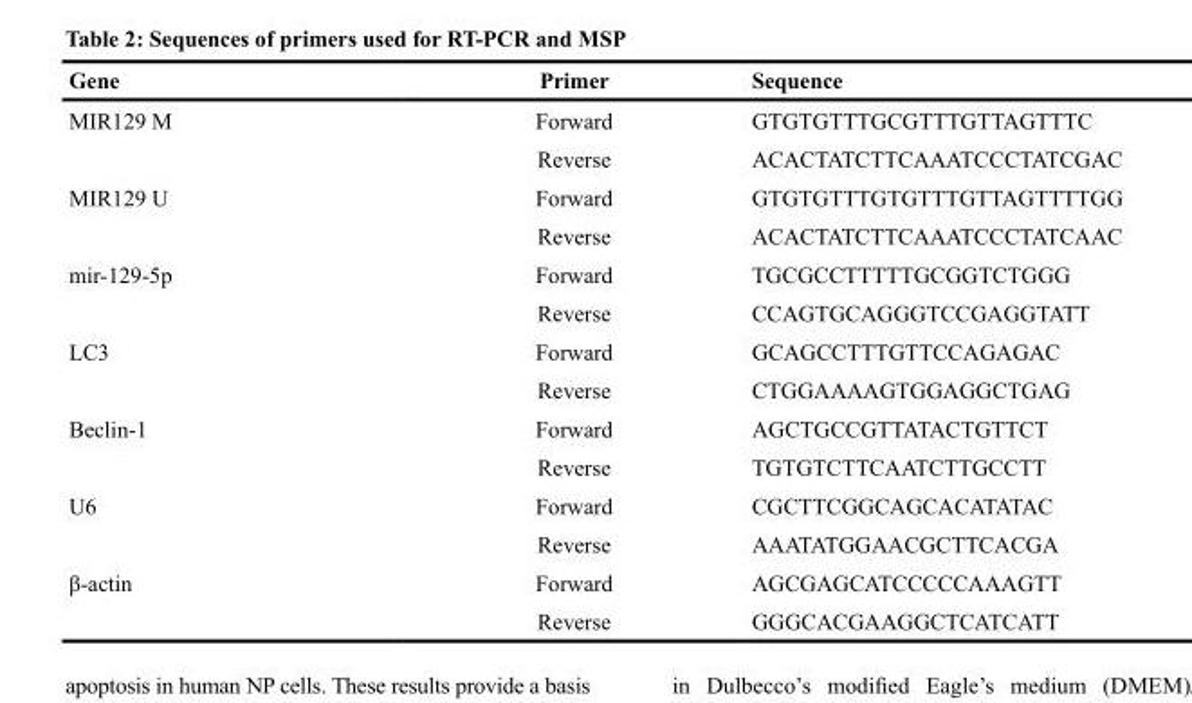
<table><thead><tr><td>Gene</td><td>Primer</td><td>Sequence</td></tr></thead><tbody><tr><td rowspan="2">MIR129 M</td><td>Forward</td><td>GTGTGTTTGCGTTTGTTAGTTTC</td></tr><tr><td>Reverse</td><td>ACACTATCTTCAAATCCCTATCGAC</td></tr><tr><td rowspan="2">MIR129 U</td><td>Forward</td><td>GTGTGTTTGTGTTTGTTAGTTTTGG</td></tr><tr><td>Reverse</td><td>ACACTATCTTCAAATCCCTATCAAC</td></tr><tr><td rowspan="2">mir-129-5p</td><td>Forward</td><td>TGCGCCTTTTTGCGGTCTGGG</td></tr><tr><td>Reverse</td><td>CCAGTGCAGGGTCCGAGGTATT</td></tr><tr><td rowspan="2">LC3</td><td>Forward</td><td>GCAGCCTTTGTTCCAGAGAC</td></tr><tr><td>Reverse</td><td>CTGGAAAAGTGGAGGCTGAG</td></tr><tr><td rowspan="2">Beclin-1</td><td>Forward</td><td>AGCTGCCGTTATACTGTTCT</td></tr><tr><td>Reverse</td><td>TGTGTCTTCAATCTTGCCTT</td></tr><tr><td rowspan="2">U6</td><td>Forward</td><td>CGCTTCGGCAGCACATATAC</td></tr><tr><td>Reverse</td><td>AAATATGGAACGCTTCACGA</td></tr><tr><td rowspan="2">β-actin</td><td>Forward</td><td>AGCGAGCATCCCCCAAAGTT</td></tr><tr><td>Reverse</td><td>GGGCACGAAGGCTCATCATT</td></tr></tbody></table>